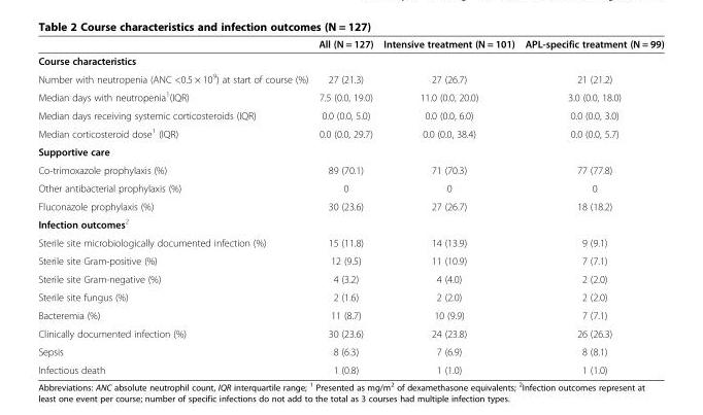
<table><thead><tr><td></td><td>All (N = 127)</td><td>Intensive treatment (N = 101)</td><td>APL-specific treatment (N = 99)</td></tr></thead><tbody><tr><td colspan="4">Course characteristics</td></tr><tr><td>Number with neutropenia (ANC &lt;0.5 × 10<sup>9</sup>) at start of course (%)</td><td>27 (21.3)</td><td>27 (26.7)</td><td>21 (21.2)</td></tr><tr><td>Median days with neutropenia<sup>1</sup>(IQR)</td><td>7.5 (0.0, 19.0)</td><td>11.0 (0.0, 20.0)</td><td>3.0 (0.0, 18.0)</td></tr><tr><td>Median days receiving systemic corticosteroids (IQR)</td><td>0.0 (0.0, 5.0)</td><td>0.0 (0.0, 6.0)</td><td>0.0 (0.0, 3.0)</td></tr><tr><td>Median corticosteroid dose<sup>1</sup> (IQR)</td><td>0.0 (0.0, 29.7)</td><td>0.0 (0.0, 38.4)</td><td>0.0 (0.0, 5.7)</td></tr><tr><td colspan="4">Supportive care</td></tr><tr><td>Co-trimoxazole prophylaxis (%)</td><td>89 (70.1)</td><td>71 (70.3)</td><td>77 (77.8)</td></tr><tr><td>Other antibacterial prophylaxis (%)</td><td>0</td><td>0</td><td>0</td></tr><tr><td>Fluconazole prophylaxis (%)</td><td>30 (23.6)</td><td>27 (26.7)</td><td>18 (18.2)</td></tr><tr><td colspan="4">Infection outcomes<sup>2</sup></td></tr><tr><td>Sterile site microbiologically documented infection (%)</td><td>15 (11.8)</td><td>14 (13.9)</td><td>9 (9.1)</td></tr><tr><td>Sterile site Gram-positive (%)</td><td>12 (9.5)</td><td>11 (10.9)</td><td>7 (7.1)</td></tr><tr><td>Sterile site Gram-negative (%)</td><td>4 (3.2)</td><td>4 (4.0)</td><td>2 (2.0)</td></tr><tr><td>Sterile site fungus (%)</td><td>2 (1.6)</td><td>2 (2.0)</td><td>2 (2.0)</td></tr><tr><td>Bacteremia (%)</td><td>11 (8.7)</td><td>10 (9.9)</td><td>7 (7.1)</td></tr><tr><td>Clinically documented infection (%)</td><td>30 (23.6)</td><td>24 (23.8)</td><td>26 (26.3)</td></tr><tr><td>Sepsis</td><td>8 (6.3)</td><td>7 (6.9)</td><td>8 (8.1)</td></tr><tr><td>Infectious death</td><td>1 (0.8)</td><td>1 (1.0)</td><td>1 (1.0)</td></tr></tbody></table>